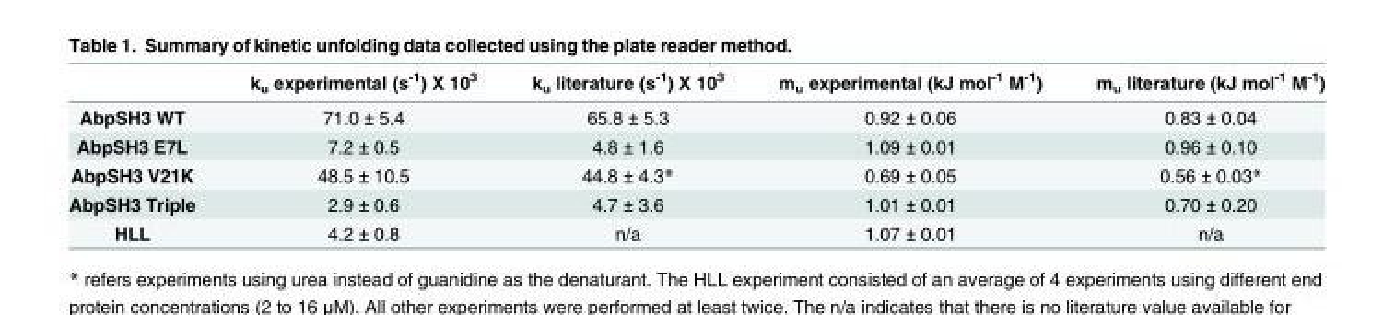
<table><thead><tr><td></td><td>k<sub>u</sub> experimental (s<sup>-1</sup>) X 10<sup>3</sup></td><td>k<sub>u</sub> literature (s<sup>-1</sup>) X 10<sup>3</sup></td><td>m<sub>u</sub> experimental (kJ mol<sup>-1</sup> M<sup>-1</sup>)</td><td>m<sub>u</sub> literature (kJ mol<sup>-1</sup> M<sup>-1</sup>)</td></tr></thead><tbody><tr><td>AbpSH3 WT</td><td>71.0 ± 5.4</td><td>65.8 ± 5.3</td><td>0.92 ± 0.06</td><td>0.83 ± 0.04</td></tr><tr><td>AbpSH3 E7L</td><td>7.2 ± 0.5</td><td>4.8 ± 1.6</td><td>1.09 ± 0.01</td><td>0.96 ± 0.10</td></tr><tr><td>AbpSH3 V21K</td><td>48.5 ± 10.5</td><td>44.8 ± 4.3*</td><td>0.69 ± 0.05</td><td>0.56 ± 0.03*</td></tr><tr><td>AbpSH3 Triple</td><td>2.9 ± 0.6</td><td>4.7 ± 3.6</td><td>1.01 ± 0.01</td><td>0.70 ± 0.20</td></tr><tr><td>HLL</td><td>4.2 ± 0.8</td><td>n/a</td><td>1.07 ± 0.01</td><td>n/a</td></tr></tbody></table>